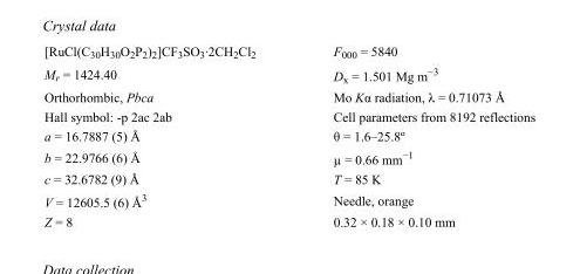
<table><tbody><tr><td>[RuCl(C<sub>30</sub>H<sub>30</sub>O<sub>2</sub>P<sub>2</sub>)<sub>2</sub>]CF<sub>3</sub>SO<sub>3</sub>·2CH<sub>2</sub>Cl<sub>2</sub></td><td>F000 = 5840</td></tr><tr><td>M<sub>r</sub> = 1424.40</td><td>D<sub>x</sub> = 1.501 Mg m<sup>−3</sup></td></tr><tr><td>Orthorhombic, Pbca</td><td>Mo Kα radiation, λ = 0.71073 Å</td></tr><tr><td>Hall symbol: -p 2ac 2ab</td><td>Cell parameters from 8192 reflections</td></tr><tr><td>a = 16.7887 (5) Å</td><td>θ = 1.6–25.8º</td></tr><tr><td>b = 22.9766 (6) Å</td><td>µ = 0.66 mm<sup>−1</sup></td></tr><tr><td>c = 32.6782 (9) Å</td><td>T = 85 K</td></tr><tr><td>V = 12605.5 (6) Å<sup>3</sup></td><td>Needle, orange</td></tr><tr><td>Z = 8</td><td>0.32 × 0.18 × 0.10 mm</td></tr></tbody></table>